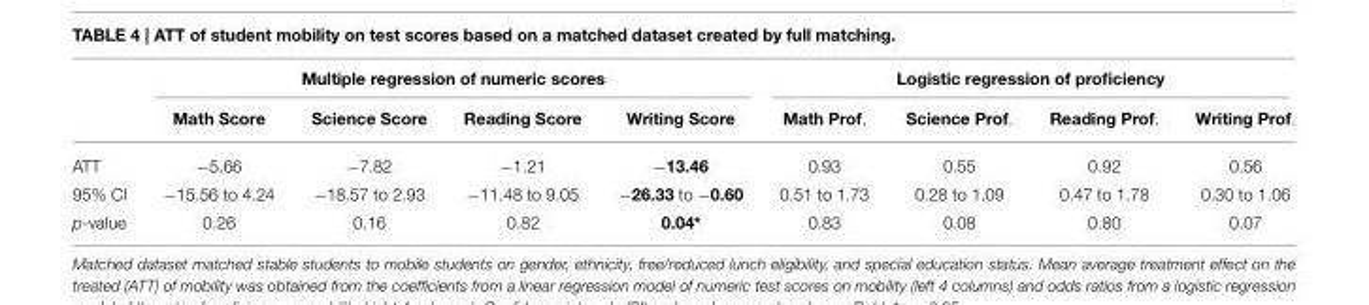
<table><thead><tr><td rowspan="2"></td><td colspan="4">Multiple regression of numeric scores</td><td colspan="4">Logistic regression of proficiency</td></tr><tr><td>Math Score</td><td>Science Score</td><td>Reading Score</td><td>Writing Score</td><td>Math Prof.</td><td>Science Prof.</td><td>Reading Prof.</td><td>Writing Prof.</td></tr></thead><tbody><tr><td>ATT</td><td>−5.66</td><td>−7.82</td><td>−1.21</td><td>−13.46</td><td>0.93</td><td>0.55</td><td>0.92</td><td>0.56</td></tr><tr><td>95% CI</td><td>−15.56 to 4.24</td><td>−18.57 to 2.93</td><td>−11.48 to 9.05</td><td>−26.33 to −0.60</td><td>0.51 to 1.73</td><td>0.28 to 1.09</td><td>0.47 to 1.78</td><td>0.30 to 1.06</td></tr><tr><td>p-value</td><td>0.26</td><td>0.16</td><td>0.82</td><td>0.04*</td><td>0.83</td><td>0.08</td><td>0.80</td><td>0.07</td></tr></tbody></table>